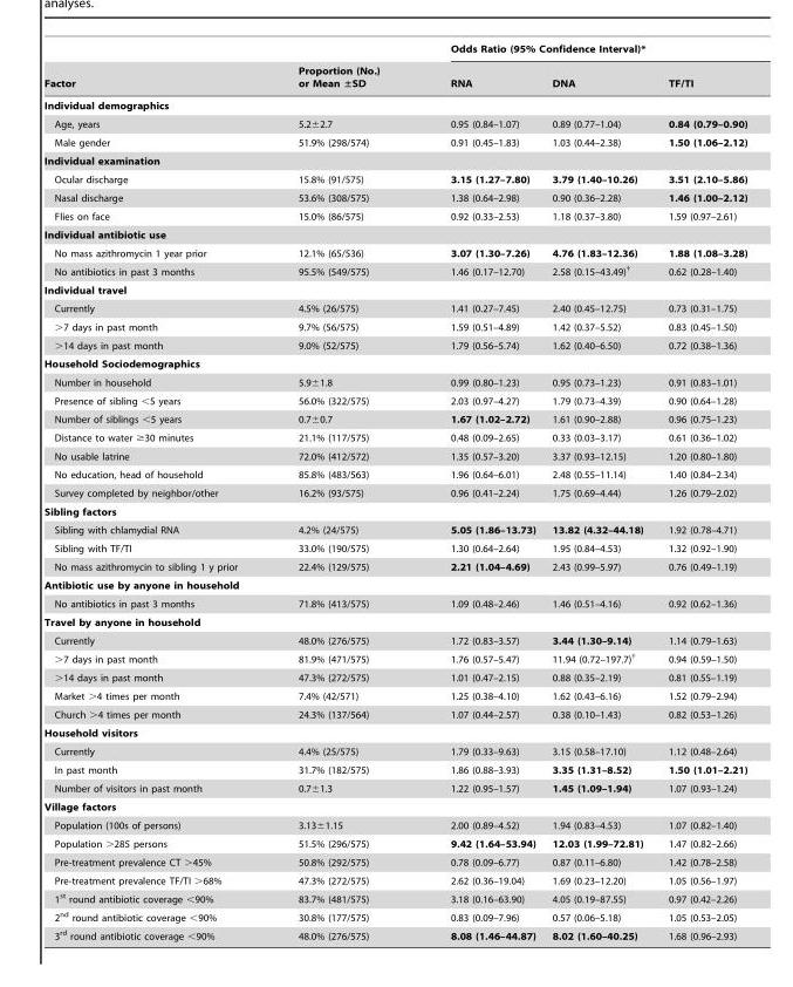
<table><thead><tr><td rowspan="2">Factor</td><td rowspan="2">Proportion (No.) or Mean ±SD</td><td colspan="3">Odds Ratio (95% Confidence Interval)*</td></tr><tr><td>RNA</td><td>DNA</td><td>TF/TI</td></tr></thead><tbody><tr><td colspan="5">Individual demographics</td></tr><tr><td>Age, years</td><td>5.2±2.7</td><td>0.95 (0.84–1.07)</td><td>0.89 (0.77–1.04)</td><td>0.84 (0.79–0.90)</td></tr><tr><td>Male gender</td><td>51.9% (298/574)</td><td>0.91 (0.45–1.83)</td><td>1.03 (0.44–2.38)</td><td>1.50 (1.06–2.12)</td></tr><tr><td colspan="5">Individual examination</td></tr><tr><td>Ocular discharge</td><td>15.8% (91/575)</td><td>3.15 (1.27–7.80)</td><td>3.79 (1.40–10.26)</td><td>3.51 (2.10–5.86)</td></tr><tr><td>Nasal discharge</td><td>53.6% (308/575)</td><td>1.38 (0.64–2.98)</td><td>0.90 (0.36–2.28)</td><td>1.46 (1.00–2.12)</td></tr><tr><td>Flies on face</td><td>15.0% (86/575)</td><td>0.92 (0.33–2.53)</td><td>1.18 (0.37–3.80)</td><td>1.59 (0.97–2.61)</td></tr><tr><td colspan="5">Individual antibiotic use</td></tr><tr><td>No mass azithromycin 1 year prior</td><td>12.1% (65/536)</td><td>3.07 (1.30–7.26)</td><td>4.76 (1.83–12.36)</td><td>1.88 (1.08–3.28)</td></tr><tr><td>No antibiotics in past 3 months</td><td>95.5% (549/575)</td><td>1.46 (0.17–12.70)</td><td>2.58 (0.15–43.49)†</td><td>0.62 (0.28–1.40)</td></tr><tr><td colspan="5">Individual travel</td></tr><tr><td>Currently</td><td>4.5% (26/575)</td><td>1.41 (0.27–7.45)</td><td>2.40 (0.45–12.75)</td><td>0.73 (0.31–1.75)</td></tr><tr><td>&gt;7 days in past month</td><td>9.7% (56/575)</td><td>1.59 (0.51–4.89)</td><td>1.42 (0.37–5.52)</td><td>0.83 (0.45–1.50)</td></tr><tr><td>&gt;14 days in past month</td><td>9.0% (52/575)</td><td>1.79 (0.56–5.74)</td><td>1.62 (0.40–6.50)</td><td>0.72 (0.38–1.36)</td></tr><tr><td colspan="5">Household Sociodemographics</td></tr><tr><td>Number in household</td><td>5.9±1.8</td><td>0.99 (0.80–1.23)</td><td>0.95 (0.73–1.23)</td><td>0.91 (0.83–1.01)</td></tr><tr><td>Presence of sibling &lt;5 years</td><td>56.0% (322/575)</td><td>2.03 (0.97–4.27)</td><td>1.79 (0.73–4.39)</td><td>0.90 (0.64–1.28)</td></tr><tr><td>Number of siblings &lt;5 years</td><td>0.7±0.7</td><td>1.67 (1.02–2.72)</td><td>1.61 (0.90–2.88)</td><td>0.96 (0.75–1.23)</td></tr><tr><td>Distance to water ≥30 minutes</td><td>21.1% (117/575)</td><td>0.48 (0.09–2.65)</td><td>0.33 (0.03–3.17)</td><td>0.61 (0.36–1.02)</td></tr><tr><td>No usable latrine</td><td>72.0% (412/572)</td><td>1.35 (0.57–3.20)</td><td>3.37 (0.93–12.15)</td><td>1.20 (0.80–1.80)</td></tr><tr><td>No education, head of household</td><td>85.8% (483/563)</td><td>1.96 (0.64–6.01)</td><td>2.48 (0.55–11.14)</td><td>1.40 (0.84–2.34)</td></tr><tr><td>Survey completed by neighbor/other</td><td>16.2% (93/575)</td><td>0.96 (0.41–2.24)</td><td>1.75 (0.69–4.44)</td><td>1.26 (0.79–2.02)</td></tr><tr><td colspan="5">Sibling factors</td></tr><tr><td>Sibling with chlamydial RNA</td><td>4.2% (24/575)</td><td>5.05 (1.86–13.73)</td><td>13.82 (4.32–44.18)</td><td>1.92 (0.78–4.71)</td></tr><tr><td>Sibling with TF/TI</td><td>33.0% (190/575)</td><td>1.30 (0.64–2.64)</td><td>1.95 (0.84–4.53)</td><td>1.32 (0.92–1.90)</td></tr><tr><td>No mass azithromycin to sibling 1 y prior</td><td>22.4% (129/575)</td><td>2.21 (1.04–4.69)</td><td>2.43 (0.99–5.97)</td><td>0.76 (0.49–1.19)</td></tr><tr><td colspan="5">Antibiotic use by anyone in household</td></tr><tr><td>No antibiotics in past 3 months</td><td>71.8% (413/575)</td><td>1.09 (0.48–2.46)</td><td>1.46 (0.51–4.16)</td><td>0.92 (0.62–1.36)</td></tr><tr><td colspan="5">Travel by anyone in household</td></tr><tr><td>Currently</td><td>48.0% (276/575)</td><td>1.72 (0.83–3.57)</td><td>3.44 (1.30–9.14)</td><td>1.14 (0.79–1.63)</td></tr><tr><td>&gt;7 days in past month</td><td>81.9% (471/575)</td><td>1.76 (0.57–5.47)</td><td>11.94 (0.72–197.7)†</td><td>0.94 (0.59–1.50)</td></tr><tr><td>&gt;14 days in past month</td><td>47.3% (272/575)</td><td>1.01 (0.47–2.15)</td><td>0.88 (0.35–2.19)</td><td>0.81 (0.55–1.19)</td></tr><tr><td>Market &gt;4 times per month</td><td>7.4% (42/571)</td><td>1.25 (0.38–4.10)</td><td>1.62 (0.43–6.16)</td><td>1.52 (0.79–2.94)</td></tr><tr><td>Church &gt;4 times per month</td><td>24.3% (137/564)</td><td>1.07 (0.44–2.57)</td><td>0.38 (0.10–1.43)</td><td>0.82 (0.53–1.26)</td></tr><tr><td colspan="5">Household visitors</td></tr><tr><td>Currently</td><td>4.4% (25/575)</td><td>1.79 (0.33–9.63)</td><td>3.15 (0.58–17.10)</td><td>1.12 (0.48–2.64)</td></tr><tr><td>In past month</td><td>31.7% (182/575)</td><td>1.86 (0.88–3.93)</td><td>3.35 (1.31–8.52)</td><td>1.50 (1.01–2.21)</td></tr><tr><td>Number of visitors in past month</td><td>0.7±1.3</td><td>1.22 (0.95–1.57)</td><td>1.45 (1.09–1.94)</td><td>1.07 (0.93–1.24)</td></tr><tr><td colspan="5">Village factors</td></tr><tr><td>Population (100s of persons)</td><td>3.13±1.15</td><td>2.00 (0.89–4.52)</td><td>1.94 (0.83–4.53)</td><td>1.07 (0.82–1.40)</td></tr><tr><td>Population &gt;285 persons</td><td>51.5% (296/575)</td><td>9.42 (1.64–53.94)</td><td>12.03 (1.99–72.81)</td><td>1.47 (0.82–2.66)</td></tr><tr><td>Pre-treatment prevalence CT &gt;45%</td><td>50.8% (292/575)</td><td>0.78 (0.09–6.77)</td><td>0.87 (0.11–6.80)</td><td>1.42 (0.78–2.58)</td></tr><tr><td>Pre-treatment prevalence TF/TI &gt;68%</td><td>47.3% (272/575)</td><td>2.62 (0.36–19.04)</td><td>1.69 (0.23–12.20)</td><td>1.05 (0.56–1.97)</td></tr><tr><td>1<sup>st</sup> round antibiotic coverage &lt;90%</td><td>83.7% (481/575)</td><td>3.18 (0.16–63.90)</td><td>4.05 (0.19–87.55)</td><td>0.97 (0.42–2.26)</td></tr><tr><td>2<sup>nd</sup> round antibiotic coverage &lt;90%</td><td>30.8% (177/575)</td><td>0.83 (0.09–7.96)</td><td>0.57 (0.06–5.18)</td><td>1.05 (0.53–2.05)</td></tr><tr><td>3<sup>rd</sup> round antibiotic coverage &lt;90%</td><td>48.0% (276/575)</td><td>8.08 (1.46–44.87)</td><td>8.02 (1.60–40.25)</td><td>1.68 (0.96–2.93)</td></tr></tbody></table>